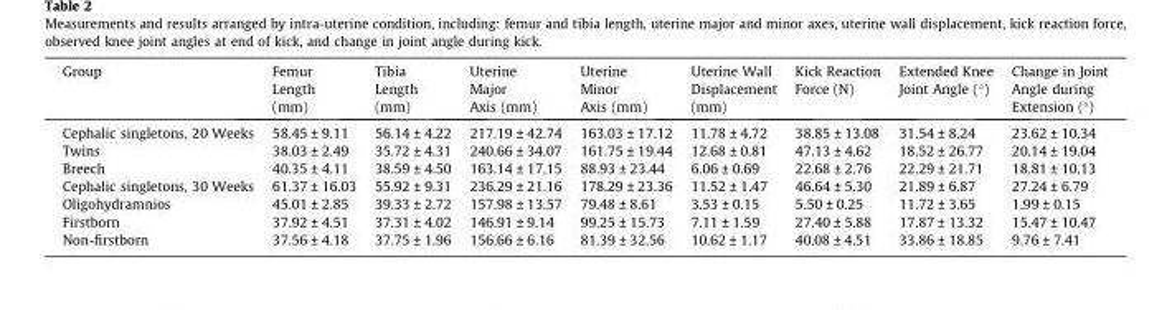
<table><thead><tr><td>Group</td><td>Femur Length (mm)</td><td>Tibia Length (mm)</td><td>Uterine Major Axis (mm)</td><td>Uterine Minor Axis (mm)</td><td>Uterine Wall Displacement (mm)</td><td>Kick Reaction Force (N)</td><td>Extended Knee Joint Angle (°)</td><td>Change in Joint Angle during Extension (°)</td></tr></thead><tbody><tr><td>Cephalic singletons, 20 Weeks</td><td>58.45 ± 9.11</td><td>56.14 ± 4.22</td><td>217.19 ± 42.74</td><td>163.03 ± 17.12</td><td>11.78 ± 4.72</td><td>38.85 ± 13.08</td><td>31.54 ± 8.24</td><td>23.62 ± 10.34</td></tr><tr><td>Twins</td><td>38.03 ± 2.49</td><td>35.72 ± 4.31</td><td>240.66 ± 34.07</td><td>161.75 ± 19.44</td><td>12.68 ± 0.81</td><td>47.13 ± 4.62</td><td>18.52 ± 26.77</td><td>20.14 ± 19.04</td></tr><tr><td>Breech</td><td>40.35 ± 4.11</td><td>38.59 ± 4.50</td><td>163.14 ± 17.15</td><td>88.93 ± 23.44</td><td>6.06 ± 0.69</td><td>22.68 ± 2.76</td><td>22.29 ± 21.71</td><td>18.81 ± 10.13</td></tr><tr><td>Cephalic singletons, 30 Weeks</td><td>61.37 ± 16.03</td><td>55.92 ± 9.31</td><td>236.29 ± 21.16</td><td>178.29 ± 23.36</td><td>11.52 ± 1.47</td><td>46.64 ± 5.30</td><td>21.89 ± 6.87</td><td>27.24 ± 6.79</td></tr><tr><td>Oligohydramnios</td><td>45.01 ± 2.85</td><td>39.33 ± 2.72</td><td>157.98 ± 13.57</td><td>79.48 ± 8.61</td><td>3.53 ± 0.15</td><td>5.50 ± 0.25</td><td>11.72 ± 3.65</td><td>1.99 ± 0.15</td></tr><tr><td>Firstborn</td><td>37.92 ± 4.51</td><td>37.31 ± 4.02</td><td>146.91 ± 9.14</td><td>99.25 ± 15.73</td><td>7.11 ± 1.59</td><td>27.40 ± 5.88</td><td>17.87 ± 13.32</td><td>15.47 ± 10.47</td></tr><tr><td>Non-firstborn</td><td>37.56 ± 4.18</td><td>37.75 ± 1.96</td><td>156.66 ± 6.16</td><td>81.39 ± 32.56</td><td>10.62 ± 1.17</td><td>40.08 ± 4.51</td><td>33.86 ± 18.85</td><td>9.76 ± 7.41</td></tr></tbody></table>